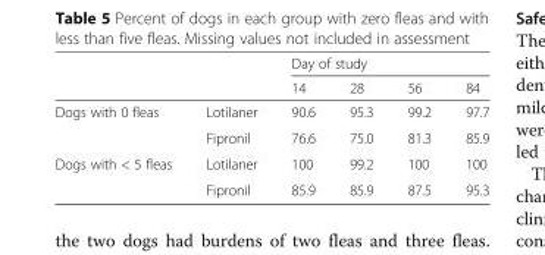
<table><thead><tr><td rowspan="2"></td><td rowspan="2"></td><td colspan="4">Day of study</td></tr><tr><td>14</td><td>28</td><td>56</td><td>84</td></tr></thead><tbody><tr><td rowspan="2">Dogs with 0 fleas</td><td>Lotilaner</td><td>90.6</td><td>95.3</td><td>99.2</td><td>97.7</td></tr><tr><td>Fipronil</td><td>76.6</td><td>75.0</td><td>81.3</td><td>85.9</td></tr><tr><td rowspan="2">Dogs with &lt; 5 fleas</td><td>Lotilaner</td><td>100</td><td>99.2</td><td>100</td><td>100</td></tr><tr><td>Fipronil</td><td>85.9</td><td>85.9</td><td>87.5</td><td>95.3</td></tr></tbody></table>